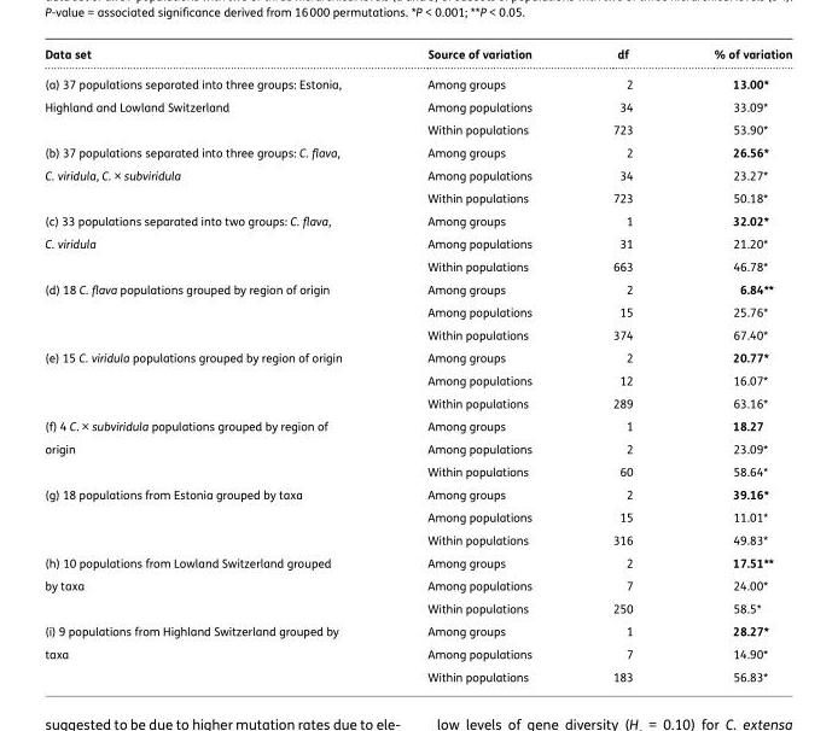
<table><thead><tr><td>Data set</td><td>Source of variation</td><td>df</td><td>% of variation</td></tr></thead><tbody><tr><td rowspan="3">(a) 37 populations separated into three groups: Estonia, Highland and Lowland Switzerland</td><td>Among groups</td><td>2</td><td>13.00*</td></tr><tr><td>Among populations</td><td>34</td><td>33.09*</td></tr><tr><td>Within populations</td><td>723</td><td>53.90*</td></tr><tr><td rowspan="3">(b) 37 populations separated into three groups: C. flava, C. viridula, C. × subviridula</td><td>Among groups</td><td>2</td><td>26.56*</td></tr><tr><td>Among populations</td><td>34</td><td>23.27*</td></tr><tr><td>Within populations</td><td>723</td><td>50.18*</td></tr><tr><td rowspan="3">(c) 33 populations separated into two groups: C. flava, C. viridula</td><td>Among groups</td><td>1</td><td>32.02*</td></tr><tr><td>Among populations</td><td>31</td><td>21.20*</td></tr><tr><td>Within populations</td><td>663</td><td>46.78*</td></tr><tr><td rowspan="3">(d) 18 C. flava populations grouped by region of origin</td><td>Among groups</td><td>2</td><td>6.84**</td></tr><tr><td>Among populations</td><td>15</td><td>25.76*</td></tr><tr><td>Within populations</td><td>374</td><td>67.40*</td></tr><tr><td rowspan="3">(e) 15 C. viridula populations grouped by region of origin</td><td>Among groups</td><td>2</td><td>20.77*</td></tr><tr><td>Among populations</td><td>12</td><td>16.07*</td></tr><tr><td>Within populations</td><td>289</td><td>63.16*</td></tr><tr><td rowspan="3">(f) 4 C. × subviridula populations grouped by region of origin</td><td>Among groups</td><td>1</td><td>18.27</td></tr><tr><td>Among populations</td><td>2</td><td>23.09*</td></tr><tr><td>Within populations</td><td>60</td><td>58.64*</td></tr><tr><td rowspan="3">(g) 18 populations from Estonia grouped by taxa</td><td>Among groups</td><td>2</td><td>39.16*</td></tr><tr><td>Among populations</td><td>15</td><td>11.01*</td></tr><tr><td>Within populations</td><td>316</td><td>49.83*</td></tr><tr><td rowspan="3">(h) 10 populations from Lowland Switzerland grouped by taxa</td><td>Among groups</td><td>2</td><td>17.51**</td></tr><tr><td>Among populations</td><td>7</td><td>24.00*</td></tr><tr><td>Within populations</td><td>250</td><td>58.5*</td></tr><tr><td rowspan="3">(i) 9 populations from Highland Switzerland grouped by taxa</td><td>Among groups</td><td>1</td><td>28.27*</td></tr><tr><td>Among populations</td><td>7</td><td>14.90*</td></tr><tr><td>Within populations</td><td>183</td><td>56.83*</td></tr></tbody></table>